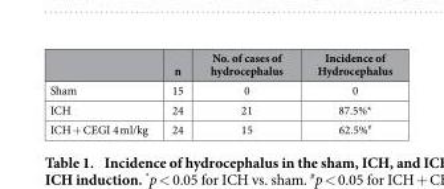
<table><thead><tr><td></td><td>n</td><td>No. of cases of hydrocephalus</td><td>Incidence of Hydrocephalus</td></tr></thead><tbody><tr><td>Sham</td><td>15</td><td>0</td><td>0</td></tr><tr><td>ICH</td><td>24</td><td>21</td><td>87.5%*</td></tr><tr><td>ICH + CEGI 4 ml/kg</td><td>24</td><td>15</td><td>62.5%#</td></tr></tbody></table>